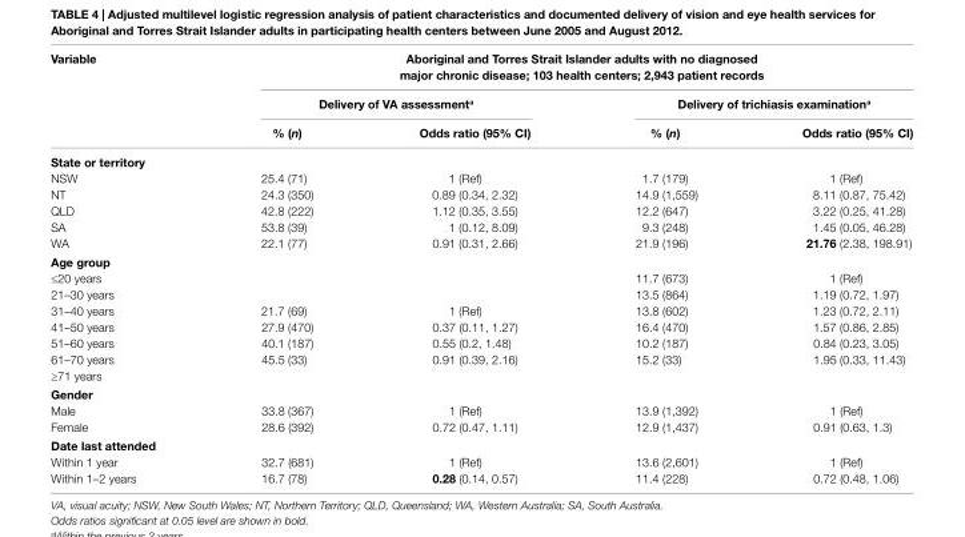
<table><thead><tr><td rowspan="3">Variable</td><td colspan="4">aboriginal and Torres strait islander adults with no diagnosed major chronic disease; 103 health centers; 2,943 patient records</td></tr><tr><td colspan="2">Delivery of Va assessment<sup>a</sup></td><td colspan="2">Delivery of trichiasis examination<sup>a</sup></td></tr><tr><td>% (n)</td><td>Odds ratio (95% ci)</td><td>% (n)</td><td>Odds ratio (95% ci)</td></tr></thead><tbody><tr><td colspan="5">state or territory</td></tr><tr><td>NSW</td><td>25.4 (71)</td><td>1 (Ref)</td><td>1.7 (179)</td><td>1 (Ref)</td></tr><tr><td>NT</td><td>24.3 (350)</td><td>0.89 (0.34, 2.32)</td><td>14.9 (1,559)</td><td>8.11 (0.87, 75.42)</td></tr><tr><td>QLD</td><td>42.8 (222)</td><td>1.12 (0.35, 3.55)</td><td>12.2 (647)</td><td>3.22 (0.25, 41.28)</td></tr><tr><td>SA</td><td>53.8 (39)</td><td>1 (0.12, 8.09)</td><td>9.3 (248)</td><td>1.45 (0.05, 46.28)</td></tr><tr><td>WA</td><td>22.1 (77)</td><td>0.91 (0.31, 2.66)</td><td>21.9 (196)</td><td>21.76 (2.38, 198.91)</td></tr><tr><td colspan="5">age group</td></tr><tr><td>≤20 years</td><td></td><td></td><td>11.7 (673)</td><td>1 (Ref)</td></tr><tr><td>21–30 years</td><td></td><td></td><td>13.5 (864)</td><td>1.19 (0.72, 1.97)</td></tr><tr><td>31–40 years</td><td>21.7 (69)</td><td>1 (Ref)</td><td>13.8 (602)</td><td>1.23 (0.72, 2.11)</td></tr><tr><td>41–50 years</td><td>27.9 (470)</td><td>0.37 (0.11, 1.27)</td><td>16.4 (470)</td><td>1.57 (0.86, 2.85)</td></tr><tr><td>51–60 years</td><td>40.1 (187)</td><td>0.55 (0.2, 1.48)</td><td>10.2 (187)</td><td>0.84 (0.23, 3.05)</td></tr><tr><td>61–70 years</td><td>45.5 (33)</td><td>0.91 (0.39, 2.16)</td><td>15.2 (33)</td><td>1.95 (0.33, 11.43)</td></tr><tr><td colspan="5">≥71 years</td></tr><tr><td colspan="5">gender</td></tr><tr><td>Male</td><td>33.8 (367)</td><td>1 (Ref)</td><td>13.9 (1,392)</td><td>1 (Ref)</td></tr><tr><td>Female</td><td>28.6 (392)</td><td>0.72 (0.47, 1.11)</td><td>12.9 (1,437)</td><td>0.91 (0.63, 1.3)</td></tr><tr><td colspan="5">Date last attended</td></tr><tr><td>Within 1 year</td><td>32.7 (681)</td><td>1 (Ref)</td><td>13.6 (2,601)</td><td>1 (Ref)</td></tr><tr><td>Within 1–2 years</td><td>16.7 (78)</td><td>0.28 (0.14, 0.57)</td><td>11.4 (228)</td><td>0.72 (0.48, 1.06)</td></tr></tbody></table>